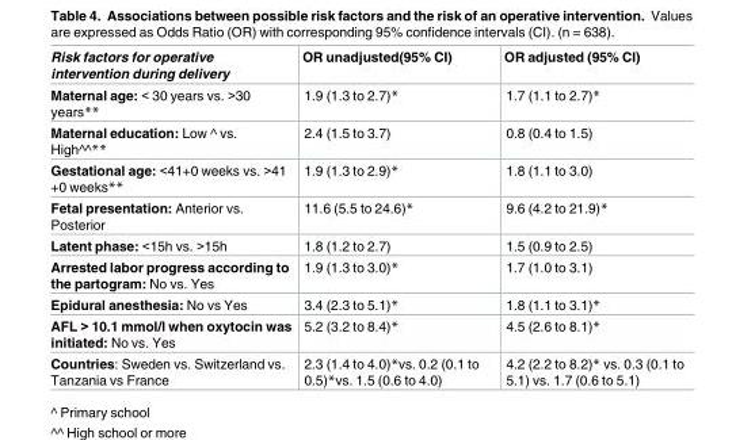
<table><thead><tr><td>Risk factors for operative intervention during delivery</td><td>OR unadjusted(95% CI)</td><td>OR adjusted (95% CI)</td></tr></thead><tbody><tr><td>Maternal age: &lt; 30 years vs. &gt;30 years**</td><td>1.9 (1.3 to 2.7)*</td><td>1.7 (1.1 to 2.7)*</td></tr><tr><td>Maternal education: Low ^ vs. High^^**</td><td>2.4 (1.5 to 3.7)</td><td>0.8 (0.4 to 1.5)</td></tr><tr><td>Gestational age: &lt;41+0 weeks vs. &gt;41 +0 weeks**</td><td>1.9 (1.3 to 2.9)*</td><td>1.8 (1.1 to 3.0)</td></tr><tr><td>Fetal presentation: Anterior vs. Posterior</td><td>11.6 (5.5 to 24.6)*</td><td>9.6 (4.2 to 21.9)*</td></tr><tr><td>Latent phase: &lt;15h vs. &gt;15h</td><td>1.8 (1.2 to 2.7)</td><td>1.5 (0.9 to 2.5)</td></tr><tr><td>Arrested labor progress according to the partogram: No vs. Yes</td><td>1.9 (1.3 to 3.0)*</td><td>1.7 (1.0 to 3.1)</td></tr><tr><td>Epidural anesthesia: No vs Yes</td><td>3.4 (2.3 to 5.1)*</td><td>1.8 (1.1 to 3.1)*</td></tr><tr><td>AFL &gt; 10.1 mmol/l when oxytocin was initiated: No vs. Yes</td><td>5.2 (3.2 to 8.4)*</td><td>4.5 (2.6 to 8.1)*</td></tr><tr><td>Countries: Sweden vs. Switzerland vs. Tanzania vs France</td><td>2.3 (1.4 to 4.0)*vs. 0.2 (0.1 to 0.5)*vs. 1.5 (0.6 to 4.0)</td><td>4.2 (2.2 to 8.2)* vs. 0.3 (0.1 to 5.1) vs. 1.7 (0.6 to 5.1)</td></tr></tbody></table>